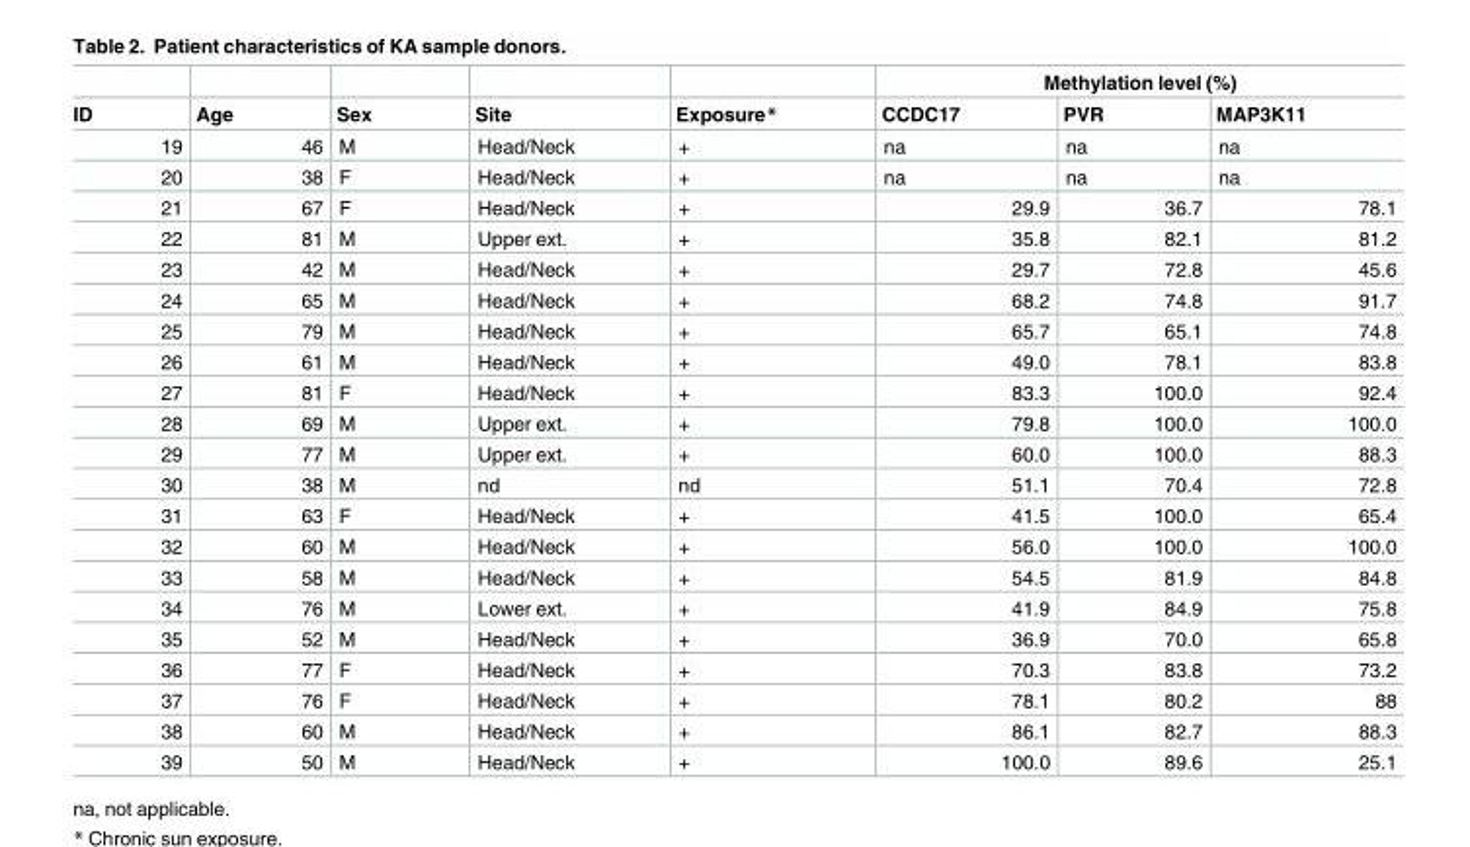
<table><thead><tr><td rowspan="2">ID</td><td rowspan="2">Age</td><td rowspan="2">Sex</td><td rowspan="2">Site</td><td rowspan="2">Exposure*</td><td colspan="3">Methylation level (%)</td></tr><tr><td>CCDC17</td><td>PVR</td><td>MAP3K11</td></tr></thead><tbody><tr><td>19</td><td>46</td><td>M</td><td>Head/Neck</td><td>+</td><td>na</td><td>na</td><td>na</td></tr><tr><td>20</td><td>38</td><td>F</td><td>Head/Neck</td><td>+</td><td>na</td><td>na</td><td>na</td></tr><tr><td>21</td><td>67</td><td>F</td><td>Head/Neck</td><td>+</td><td>29.9</td><td>36.7</td><td>78.1</td></tr><tr><td>22</td><td>81</td><td>M</td><td>Upper ext.</td><td>+</td><td>35.8</td><td>82.1</td><td>81.2</td></tr><tr><td>23</td><td>42</td><td>M</td><td>Head/Neck</td><td>+</td><td>29.7</td><td>72.8</td><td>45.6</td></tr><tr><td>24</td><td>65</td><td>M</td><td>Head/Neck</td><td>+</td><td>68.2</td><td>74.8</td><td>91.7</td></tr><tr><td>25</td><td>79</td><td>M</td><td>Head/Neck</td><td>+</td><td>65.7</td><td>65.1</td><td>74.8</td></tr><tr><td>26</td><td>61</td><td>M</td><td>Head/Neck</td><td>+</td><td>49.0</td><td>78.1</td><td>83.8</td></tr><tr><td>27</td><td>81</td><td>F</td><td>Head/Neck</td><td>+</td><td>83.3</td><td>100.0</td><td>92.4</td></tr><tr><td>28</td><td>69</td><td>M</td><td>Upper ext.</td><td>+</td><td>79.8</td><td>100.0</td><td>100.0</td></tr><tr><td>29</td><td>77</td><td>M</td><td>Upper ext.</td><td>+</td><td>60.0</td><td>100.0</td><td>88.3</td></tr><tr><td>30</td><td>38</td><td>M</td><td>nd</td><td>nd</td><td>51.1</td><td>70.4</td><td>72.8</td></tr><tr><td>31</td><td>63</td><td>F</td><td>Head/Neck</td><td>+</td><td>41.5</td><td>100.0</td><td>65.4</td></tr><tr><td>32</td><td>60</td><td>M</td><td>Head/Neck</td><td>+</td><td>56.0</td><td>100.0</td><td>100.0</td></tr><tr><td>33</td><td>58</td><td>M</td><td>Head/Neck</td><td>+</td><td>54.5</td><td>81.9</td><td>84.8</td></tr><tr><td>34</td><td>76</td><td>M</td><td>Lower ext.</td><td>+</td><td>41.9</td><td>84.9</td><td>75.8</td></tr><tr><td>35</td><td>52</td><td>M</td><td>Head/Neck</td><td>+</td><td>36.9</td><td>70.0</td><td>65.8</td></tr><tr><td>36</td><td>77</td><td>F</td><td>Head/Neck</td><td>+</td><td>70.3</td><td>83.8</td><td>73.2</td></tr><tr><td>37</td><td>76</td><td>F</td><td>Head/Neck</td><td>+</td><td>78.1</td><td>80.2</td><td>88</td></tr><tr><td>38</td><td>60</td><td>M</td><td>Head/Neck</td><td>+</td><td>86.1</td><td>82.7</td><td>88.3</td></tr><tr><td>39</td><td>50</td><td>M</td><td>Head/Neck</td><td>+</td><td>100.0</td><td>89.6</td><td>25.1</td></tr></tbody></table>